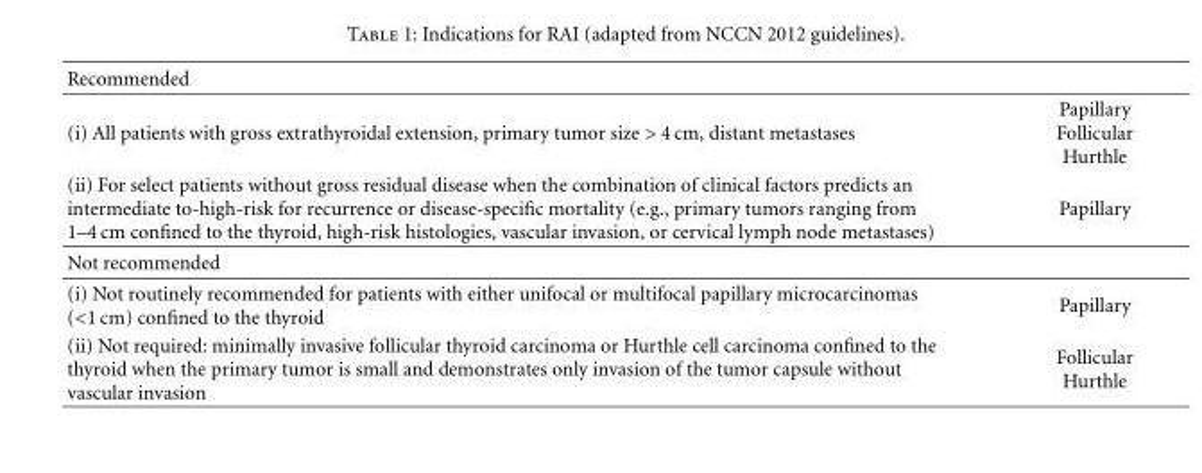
<table><thead><tr><td>Recommended</td><td></td></tr></thead><tbody><tr><td>(i) All patients with gross extrathyroidal extension, primary tumor size &gt; 4 cm, distant metastases</td><td>Papillary Follicular Hurthle</td></tr><tr><td>(ii) For select patients without gross residual disease when the combination of clinical factors predicts an intermediate to-high-risk for recurrence or disease-specific mortality (e.g., primary tumors ranging from 1–4 cm confined to the thyroid, high-risk histologies, vascular invasion, or cervical lymph node metastases)</td><td>Papillary</td></tr><tr><td colspan="2">Not recommended</td></tr><tr><td>(i) Not routinely recommended for patients with either unifocal or multifocal papillary microcarcinomas (&lt;1 cm) confined to the thyroid</td><td>Papillary</td></tr><tr><td>(ii) Not required: minimally invasive follicular thyroid carcinoma or Hurthle cell carcinoma confined to the thyroid when the primary tumor is small and demonstrates only invasion of the tumor capsule without vascular invasion</td><td>Follicular Hurthle</td></tr></tbody></table>